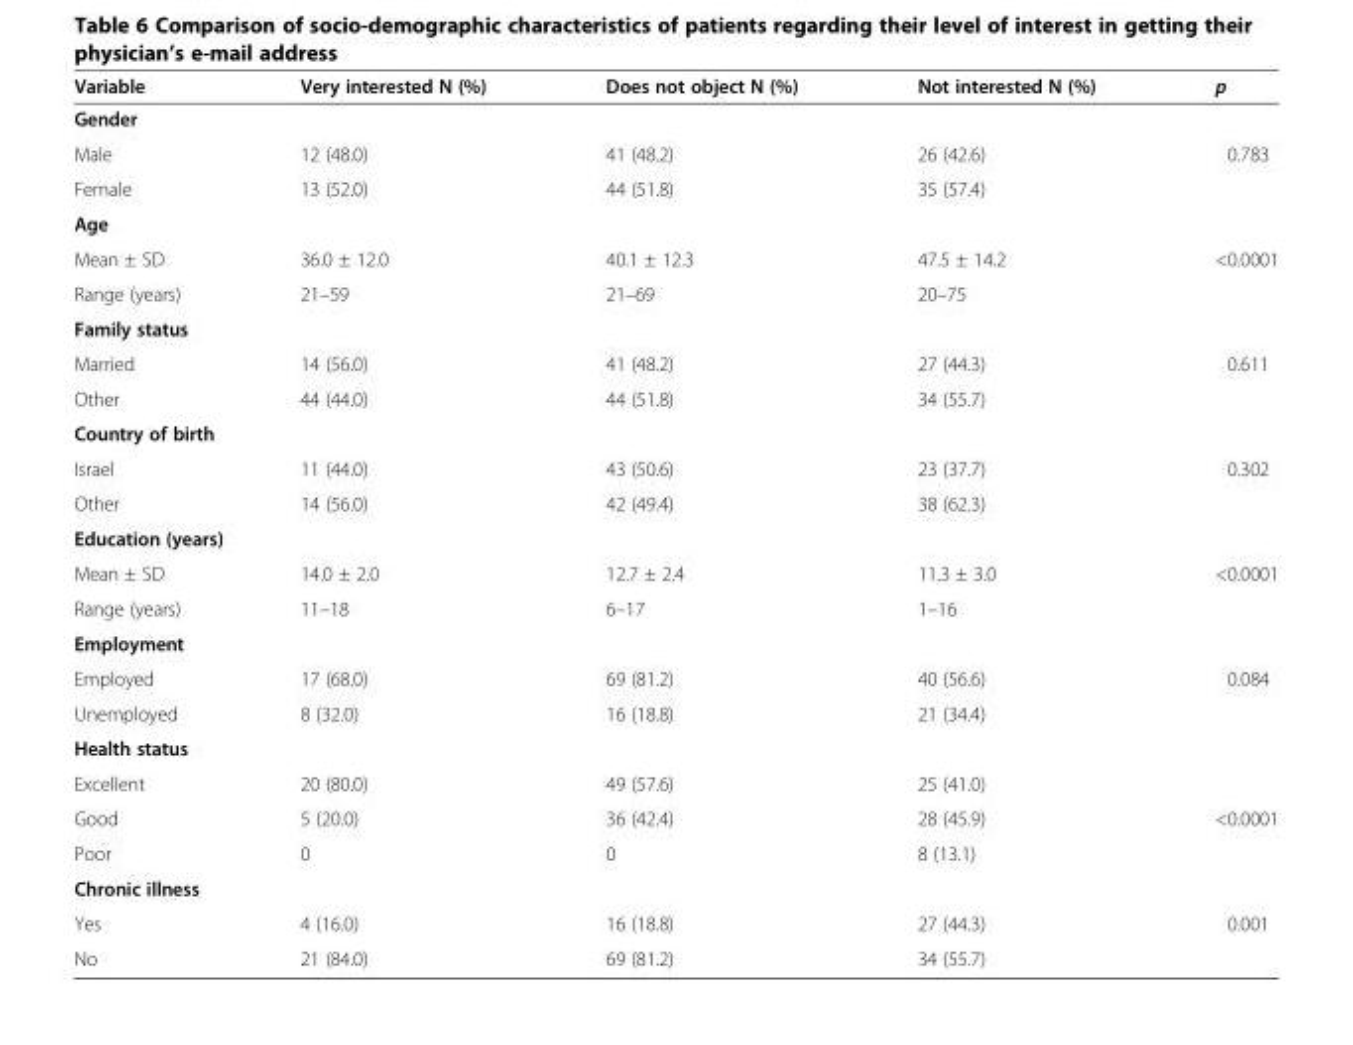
<table><thead><tr><td>Variable</td><td>Very interested N (%)</td><td>Does not object N (%)</td><td>Not interested N (%)</td><td>p</td></tr></thead><tbody><tr><td colspan="5">Gender</td></tr><tr><td>Male</td><td>12 (48.0)</td><td>41 (48.2)</td><td>26 (42.6)</td><td>0.783</td></tr><tr><td>Female</td><td>13 (52.0)</td><td>44 (51.8)</td><td>35 (57.4)</td><td></td></tr><tr><td colspan="5">Age</td></tr><tr><td>Mean ± SD</td><td>36.0 ± 12.0</td><td>40.1 ± 12.3</td><td>47.5 ± 14.2</td><td>&lt;0.0001</td></tr><tr><td>Range (years)</td><td>21–59</td><td>21–69</td><td>20–75</td><td></td></tr><tr><td colspan="5">Family status</td></tr><tr><td>Married</td><td>14 (56.0)</td><td>41 (48.2)</td><td>27 (44.3)</td><td>0.611</td></tr><tr><td>Other</td><td>44 (44.0)</td><td>44 (51.8)</td><td>34 (55.7)</td><td></td></tr><tr><td colspan="5">Country of birth</td></tr><tr><td>Israel</td><td>11 (44.0)</td><td>43 (50.6)</td><td>23 (37.7)</td><td>0.302</td></tr><tr><td>Other</td><td>14 (56.0)</td><td>42 (49.4)</td><td>38 (62.3)</td><td></td></tr><tr><td colspan="5">Education (years)</td></tr><tr><td>Mean ± SD</td><td>14.0 ± 2.0</td><td>12.7 ± 2.4</td><td>11.3 ± 3.0</td><td>&lt;0.0001</td></tr><tr><td>Range (years)</td><td>11–18</td><td>6–17</td><td>1–16</td><td></td></tr><tr><td colspan="5">Employment</td></tr><tr><td>Employed</td><td>17 (68.0)</td><td>69 (81.2)</td><td>40 (56.6)</td><td>0.084</td></tr><tr><td>Unemployed</td><td>8 (32.0)</td><td>16 (18.8)</td><td>21 (34.4)</td><td></td></tr><tr><td colspan="5">Health status</td></tr><tr><td>Excellent</td><td>20 (80.0)</td><td>49 (57.6)</td><td>25 (41.0)</td><td></td></tr><tr><td>Good</td><td>5 (20.0)</td><td>36 (42.4)</td><td>28 (45.9)</td><td>&lt;0.0001</td></tr><tr><td>Poor</td><td>0</td><td>0</td><td>8 (13.1)</td><td></td></tr><tr><td colspan="5">Chronic illness</td></tr><tr><td>Yes</td><td>4 (16.0)</td><td>16 (18.8)</td><td>27 (44.3)</td><td>0.001</td></tr><tr><td>No</td><td>21 (84.0)</td><td>69 (81.2)</td><td>34 (55.7)</td><td></td></tr></tbody></table>